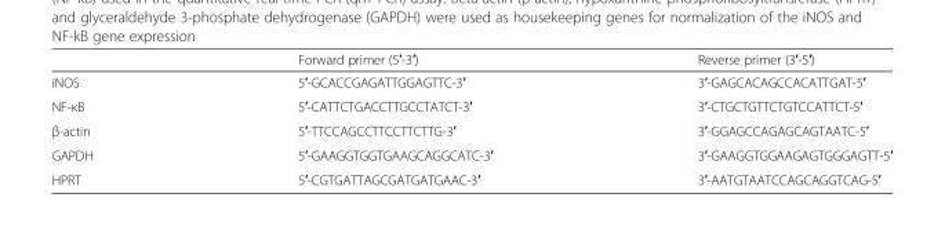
<table><thead><tr><td></td><td>Forward primer (5′-3′)</td><td>Reverse primer (3′-5′)</td></tr></thead><tbody><tr><td>iNOS</td><td>5′-GCACCGAGATTGGAGTTC-3′</td><td>3′-GAGCACAGCCACATTGAT-5′</td></tr><tr><td>NF-κB</td><td>5′-CATTCTGACCTTGCCTATCT-3′</td><td>3′-CTGCTGTTCTGTCCATTCT-5′</td></tr><tr><td>β-actin</td><td>5′-TTCCAGCCTTCCTTCTTG-3′</td><td>3′-GGAGCCAGAGCAGTAATC-5′</td></tr><tr><td>GAPDH</td><td>5′-GAAGGTGGTGAAGCAGGCATC-3′</td><td>3′-GAAGGTGGAAGAGTGGGAGTT-5′</td></tr><tr><td>HPRT</td><td>5′-CGTGATTAGCGATGATGAAC-3′</td><td>3′-AATGTAATCCAGCAGGTCAG-5′</td></tr></tbody></table>